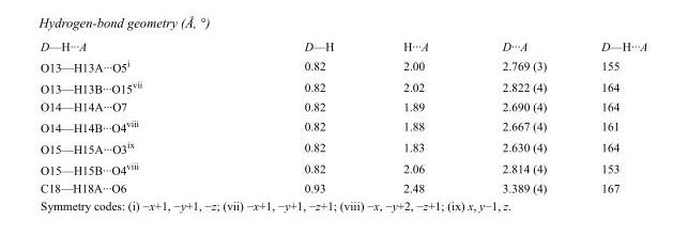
<table><tbody><tr><td>D—H···A</td><td>D—H</td><td>H···A</td><td>D···A</td><td>D—H···A</td></tr><tr><td>O13—H13A···O5<sup>i</sup></td><td>0.82</td><td>2.00</td><td>2.769 (3)</td><td>155</td></tr><tr><td>O13—H13B···O15<sup>vii</sup></td><td>0.82</td><td>2.02</td><td>2.822 (4)</td><td>164</td></tr><tr><td>O14—H14A···O7</td><td>0.82</td><td>1.89</td><td>2.690 (4)</td><td>164</td></tr><tr><td>O14—H14B···O4<sup>viii</sup></td><td>0.82</td><td>1.88</td><td>2.667 (4)</td><td>161</td></tr><tr><td>O15—H15A···O3<sup>ix</sup></td><td>0.82</td><td>1.83</td><td>2.630 (4)</td><td>164</td></tr><tr><td>O15—H15B···O4<sup>viii</sup></td><td>0.82</td><td>2.06</td><td>2.814 (4)</td><td>153</td></tr><tr><td>C18—H18A···O6</td><td>0.93</td><td>2.48</td><td>3.389 (4)</td><td>167</td></tr></tbody></table>